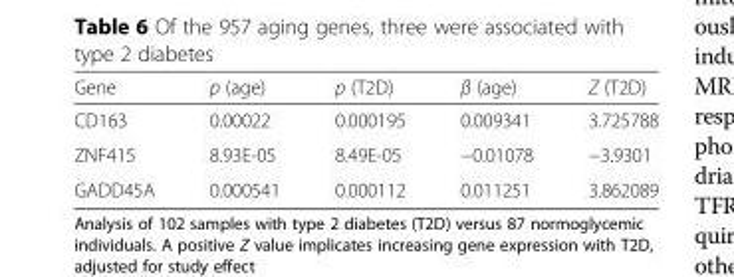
<table><thead><tr><td>Gene</td><td>p (age)</td><td>p (T2D)</td><td>β (age)</td><td>Z (T2D)</td></tr></thead><tbody><tr><td>CD163</td><td>0.00022</td><td>0.000195</td><td>0.009341</td><td>3.725788</td></tr><tr><td>ZNF415</td><td>8.93E-05</td><td>8.49E-05</td><td>−0.01078</td><td>−3.9301</td></tr><tr><td>GADD45A</td><td>0.000541</td><td>0.000112</td><td>0.011251</td><td>3.862089</td></tr></tbody></table>